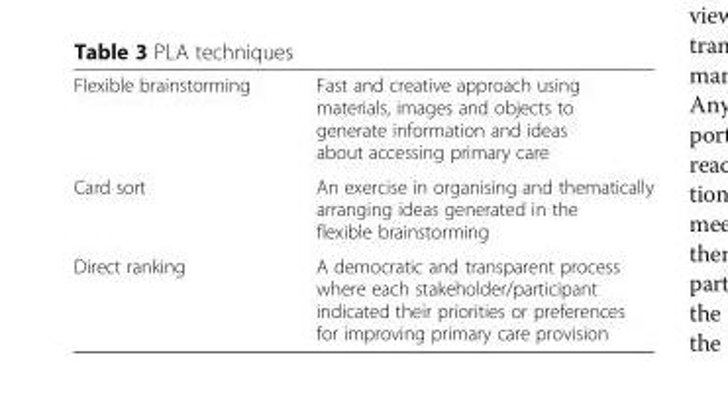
<table><tbody><tr><td>Flexible brainstorming</td><td>Fast and creative approach using materials, images and objects to generate information and ideas about accessing primary care</td></tr><tr><td>Card sort</td><td>An exercise in organising and thematically arranging ideas generated in the flexible brainstorming</td></tr><tr><td>Direct ranking</td><td>A democratic and transparent process where each stakeholder/participant indicated their priorities or preferences for improving primary care provision</td></tr></tbody></table>